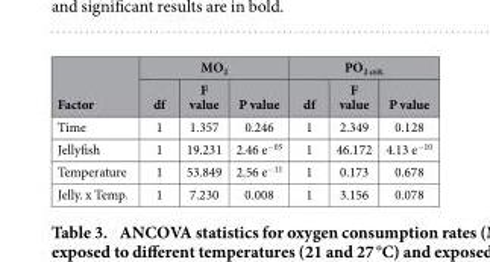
<table><thead><tr><td rowspan="2">Factor</td><td colspan="3">MO<sub>2</sub></td><td colspan="3">PO<sub>2 crit.</sub></td></tr><tr><td>df</td><td>F value</td><td>P value</td><td>df</td><td>F value</td><td>P value</td></tr></thead><tbody><tr><td>Time</td><td>1</td><td>1.357</td><td>0.246</td><td>1</td><td>2.349</td><td>0.128</td></tr><tr><td>Jellyfish</td><td>1</td><td>19.231</td><td>2.46 e<sup>−05</sup></td><td>1</td><td>46.172</td><td>4.13 e<sup>−10</sup></td></tr><tr><td>Temperature</td><td>1</td><td>53.849</td><td>2.56 e<sup>−11</sup></td><td>1</td><td>0.173</td><td>0.678</td></tr><tr><td>Jelly. x Temp.</td><td>1</td><td>7.230</td><td>0.008</td><td>1</td><td>3.156</td><td>0.078</td></tr></tbody></table>